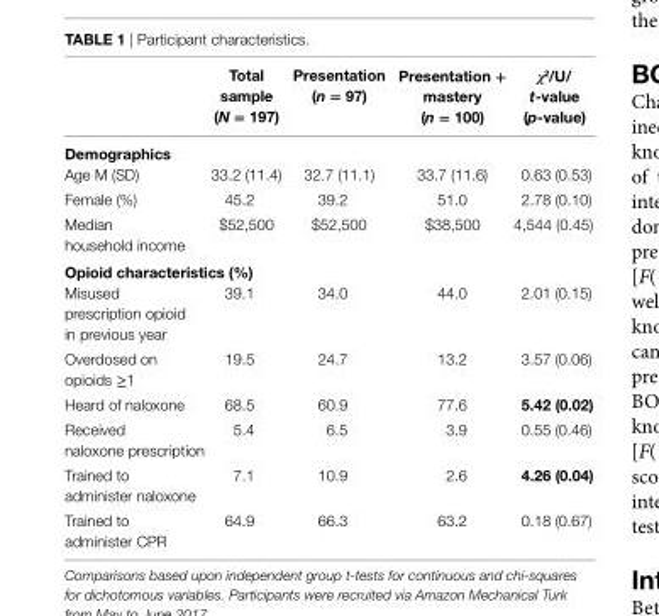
<table><thead><tr><td></td><td>Total sample (N = 197)</td><td>Presentation (n = 97)</td><td>Presentation + mastery (n = 100)</td><td>χ<sup>2</sup>/U/ t-value (p-value)</td></tr></thead><tbody><tr><td colspan="5">Demographics</td></tr><tr><td>Age M (SD)</td><td>33.2 (11.4)</td><td>32.7 (11.1)</td><td>33.7 (11.6)</td><td>0.63 (0.53)</td></tr><tr><td>Female (%)</td><td>45.2</td><td>39.2</td><td>51.0</td><td>2.78 (0.10)</td></tr><tr><td>Median household income</td><td>$52,500</td><td>$52,500</td><td>$38,500</td><td>4,544 (0.45)</td></tr><tr><td colspan="5">Opioid characteristics (%)</td></tr><tr><td>Misused prescription opioid in previous year</td><td>39.1</td><td>34.0</td><td>44.0</td><td>2.01 (0.15)</td></tr><tr><td>Overdosed on opioids ≥1</td><td>19.5</td><td>24.7</td><td>13.2</td><td>3.57 (0.06)</td></tr><tr><td>Heard of naloxone</td><td>68.5</td><td>60.9</td><td>77.6</td><td>5.42 (0.02)</td></tr><tr><td>Received naloxone prescription</td><td>5.4</td><td>6.5</td><td>3.9</td><td>0.55 (0.46)</td></tr><tr><td>Trained to administer naloxone</td><td>7.1</td><td>10.9</td><td>2.6</td><td>4.26 (0.04)</td></tr><tr><td>Trained to administer CPR</td><td>64.9</td><td>66.3</td><td>63.2</td><td>0.18 (0.67)</td></tr></tbody></table>